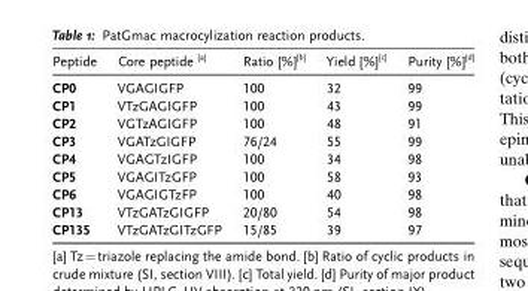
<table><thead><tr><td>Peptide</td><td>Core peptide <sup>[a]</sup></td><td>Ratio [%]<sup>[b]</sup></td><td>Yield [%]<sup>[c]</sup></td><td>Purity [%]<sup>[d]</sup></td></tr></thead><tbody><tr><td>CP0</td><td>VGAGIGFP</td><td>100</td><td>32</td><td>99</td></tr><tr><td>CP1</td><td>VTzGAGIGFP</td><td>100</td><td>43</td><td>99</td></tr><tr><td>CP2</td><td>VGTzAGIGFP</td><td>100</td><td>48</td><td>91</td></tr><tr><td>CP3</td><td>VGATzGIGFP</td><td>76/24</td><td>55</td><td>99</td></tr><tr><td>CP4</td><td>VGAGTzIGFP</td><td>100</td><td>34</td><td>98</td></tr><tr><td>CP5</td><td>VGAGITzGFP</td><td>100</td><td>58</td><td>93</td></tr><tr><td>CP6</td><td>VGAGIGTzFP</td><td>100</td><td>40</td><td>98</td></tr><tr><td>CP13</td><td>VTzGATzGIGFP</td><td>20/80</td><td>54</td><td>98</td></tr><tr><td>CP135</td><td>VTzGATzGITzGFP</td><td>15/85</td><td>39</td><td>97</td></tr></tbody></table>